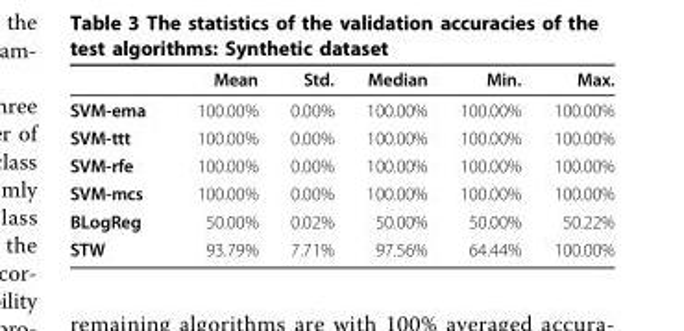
<table><thead><tr><td></td><td>Mean</td><td>Std.</td><td>Median</td><td>Min.</td><td>Max.</td></tr></thead><tbody><tr><td>SVM-ema</td><td>100.00%</td><td>0.00%</td><td>100.00%</td><td>100.00%</td><td>100.00%</td></tr><tr><td>SVM-ttt</td><td>100.00%</td><td>0.00%</td><td>100.00%</td><td>100.00%</td><td>100.00%</td></tr><tr><td>SVM-rfe</td><td>100.00%</td><td>0.00%</td><td>100.00%</td><td>100.00%</td><td>100.00%</td></tr><tr><td>SVM-mcs</td><td>100.00%</td><td>0.00%</td><td>100.00%</td><td>100.00%</td><td>100.00%</td></tr><tr><td>BLogReg</td><td>50.00%</td><td>0.02%</td><td>50.00%</td><td>50.00%</td><td>50.22%</td></tr><tr><td>STW</td><td>93.79%</td><td>7.71%</td><td>97.56%</td><td>64.44%</td><td>100.00%</td></tr></tbody></table>